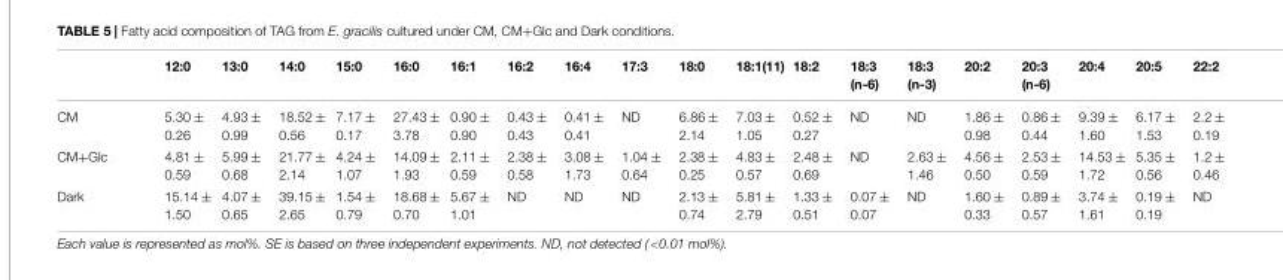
<table><thead><tr><td></td><td>12:0</td><td>13:0</td><td>14:0</td><td>15:0</td><td>16:0</td><td>16:1</td><td>16:2</td><td>16:4</td><td>17:3</td><td>18:0</td><td>18:1(11)</td><td>18:2</td><td>18:3 (n-6)</td><td>18:3 (n-3)</td><td>20:2</td><td>20:3 (n-6)</td><td>20:4</td><td>20:5</td><td>22:2</td></tr></thead><tbody><tr><td>CM</td><td>5.30 ± 0.26</td><td>4.93 ± 0.99</td><td>18.52 ± 0.56</td><td>7.17 ± 0.17</td><td>27.43 ± 3.78</td><td>0.90 ± 0.90</td><td>0.43 ± 0.43</td><td>0.41 ± 0.41</td><td>ND</td><td>6.86 ± 2.14</td><td>7.03 ± 1.05</td><td>0.52 ± 0.27</td><td>ND</td><td>ND</td><td>1.86 ± 0.98</td><td>0.86 ± 0.44</td><td>9.39 ± 1.60</td><td>6.17 ± 1.53</td><td>2.2 ± 0.19</td></tr><tr><td>CM+Glc</td><td>4.81 ± 0.59</td><td>5.99 ± 0.68</td><td>21.77 ± 2.14</td><td>4.24 ± 1.07</td><td>14.09 ± 1.93</td><td>2.11 ± 0.59</td><td>2.38 ± 0.58</td><td>3.08 ± 1.73</td><td>1.04 ± 0.64</td><td>2.38 ± 0.25</td><td>4.83 ± 0.57</td><td>2.48 ± 0.69</td><td>ND</td><td>2.63 ± 1.46</td><td>4.56 ± 0.50</td><td>2.53 ± 0.59</td><td>14.53 ± 1.72</td><td>5.35 ± 0.56</td><td>1.2 ± 0.46</td></tr><tr><td>Dark</td><td>15.14 ± 1.50</td><td>4.07 ± 0.65</td><td>39.15 ± 2.65</td><td>1.54 ± 0.79</td><td>18.68 ± 0.70</td><td>5.67 ± 1.01</td><td>ND</td><td>ND</td><td>ND</td><td>2.13 ± 0.74</td><td>5.81 ± 2.79</td><td>1.33 ± 0.51</td><td>0.07 ± 0.07</td><td>ND</td><td>1.60 ± 0.33</td><td>0.89 ± 0.57</td><td>3.74 ± 1.61</td><td>0.19 ± 0.19</td><td>ND</td></tr></tbody></table>